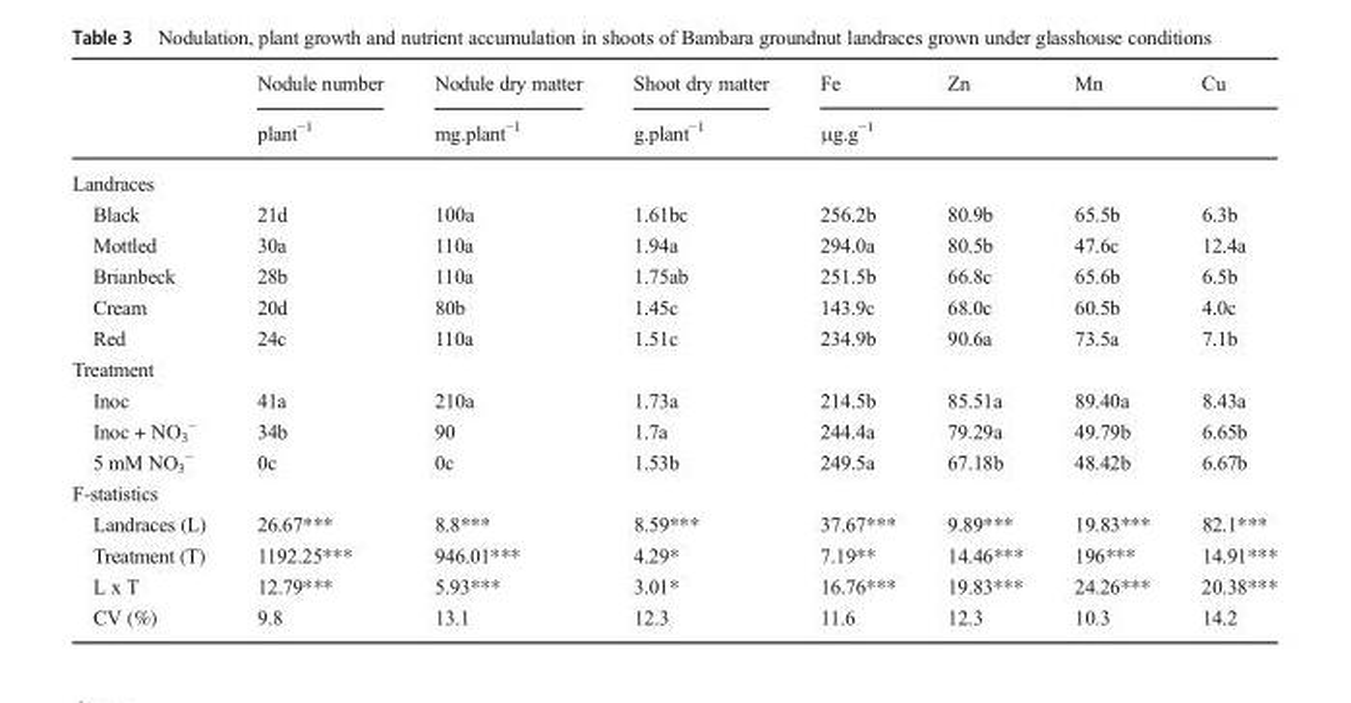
<table><thead><tr><td rowspan="2"></td><td rowspan="2">Nodule number plant<sup>−1</sup></td><td rowspan="2">Nodule dry matter mg.plant<sup>−1</sup></td><td rowspan="2">Shoot dry matter g.plant<sup>−1</sup></td><td>Fe</td><td>Zn</td><td>Mn</td><td>Cu</td></tr><tr><td colspan="4">μg.g<sup>−1</sup></td></tr></thead><tbody><tr><td colspan="8">Landraces</td></tr><tr><td>Black</td><td>21d</td><td>100a</td><td>1.61bc</td><td>256.2b</td><td>80.9b</td><td>65.5b</td><td>6.3b</td></tr><tr><td>Mottled</td><td>30a</td><td>110a</td><td>1.94a</td><td>294.0a</td><td>80.5b</td><td>47.6c</td><td>12.4a</td></tr><tr><td>Brianbeck</td><td>28b</td><td>110a</td><td>1.75ab</td><td>251.5b</td><td>66.8c</td><td>65.6b</td><td>6.5b</td></tr><tr><td>Cream</td><td>20d</td><td>80b</td><td>1.45c</td><td>143.9c</td><td>68.0c</td><td>60.5b</td><td>4.0c</td></tr><tr><td>Red</td><td>24c</td><td>110a</td><td>1.51c</td><td>234.9b</td><td>90.6a</td><td>73.5a</td><td>7.1b</td></tr><tr><td colspan="8">Treatment</td></tr><tr><td>Inoc</td><td>41a</td><td>210a</td><td>1.73a</td><td>214.5b</td><td>85.51a</td><td>89.40a</td><td>8.43a</td></tr><tr><td>Inoc + NO<sub>3</sub> <sup>−</sup></td><td>34b</td><td>90</td><td>1.7a</td><td>244.4a</td><td>79.29a</td><td>49.79b</td><td>6.65b</td></tr><tr><td>5 mM NO<sub>3</sub> <sup>−</sup></td><td>0c</td><td>0c</td><td>1.53b</td><td>249.5a</td><td>67.18b</td><td>48.42b</td><td>6.67b</td></tr><tr><td colspan="8">F-statistics</td></tr><tr><td>Landraces (L)</td><td>26.67***</td><td>8.8***</td><td>8.59***</td><td>37.67***</td><td>9.89***</td><td>19.83***</td><td>82.1***</td></tr><tr><td>Treatment (T)</td><td>1192.25***</td><td>946.01***</td><td>4.29*</td><td>7.19**</td><td>14.46***</td><td>196***</td><td>14.91***</td></tr><tr><td>L x T</td><td>12.79***</td><td>5.93***</td><td>3.01*</td><td>16.76***</td><td>19.83***</td><td>24.26***</td><td>20.38***</td></tr><tr><td>CV (%)</td><td>9.8</td><td>13.1</td><td>12.3</td><td>11.6</td><td>12.3</td><td>10.3</td><td>14.2</td></tr></tbody></table>